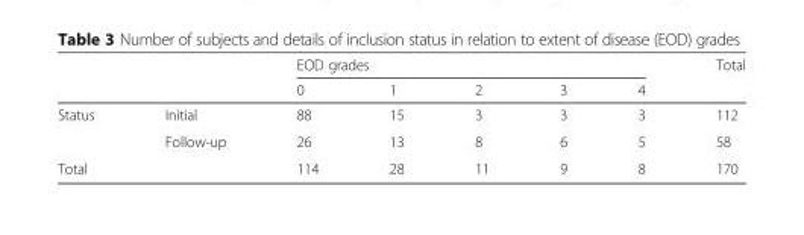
<table><thead><tr><td rowspan="2"></td><td rowspan="2"></td><td colspan="5">EOD grades</td><td rowspan="2">Total</td></tr><tr><td>0</td><td>1</td><td>2</td><td>3</td><td>4</td></tr></thead><tbody><tr><td rowspan="2">Status</td><td>Initial</td><td>88</td><td>15</td><td>3</td><td>3</td><td>3</td><td>112</td></tr><tr><td>Follow-up</td><td>26</td><td>13</td><td>8</td><td>6</td><td>5</td><td>58</td></tr><tr><td>Total</td><td></td><td>114</td><td>28</td><td>11</td><td>9</td><td>8</td><td>170</td></tr></tbody></table>